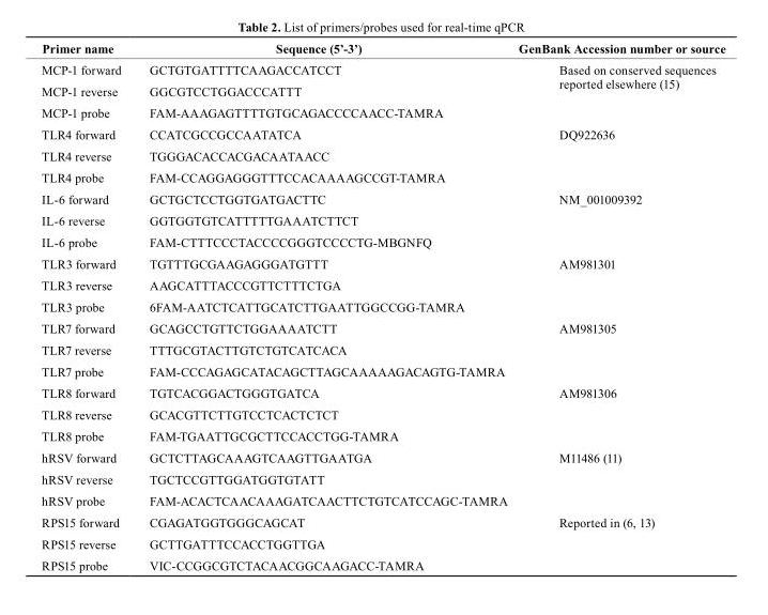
<table><thead><tr><td>Primer name</td><td>Sequence (5’-3’)</td><td>GenBank Accession number or source</td></tr></thead><tbody><tr><td>MCP-1 forward</td><td>GCTGTGATTTTCAAGACCATCCT</td><td rowspan="3">Based on conserved sequences reported elsewhere (15)</td></tr><tr><td>MCP-1 reverse</td><td>GGCGTCCTGGACCCATTT</td></tr><tr><td>MCP-1 probe</td><td>FAM-AAAGAGTTTTGTGCAGACCCCAACC-TAMRA</td></tr><tr><td>TLR4 forward</td><td>CCATCGCCGCCAATATCA</td><td rowspan="3">DQ922636</td></tr><tr><td>TLR4 reverse</td><td>TGGGACACCACGACAATAACC</td></tr><tr><td>TLR4 probe</td><td>FAM-CCAGGAGGGTTTCCACAAAAGCCGT-TAMRA</td></tr><tr><td>IL-6 forward</td><td>GCTGCTCCTGGTGATGACTTC</td><td rowspan="3">NM_001009392</td></tr><tr><td>IL-6 reverse</td><td>GGTGGTGTCATTTTTGAAATCTTCT</td></tr><tr><td>IL-6 probe</td><td>FAM-CTTTCCCTACCCCGGGTCCCCTG-MBGNFQ</td></tr><tr><td>TLR3 forward</td><td>TGTTTGCGAAGAGGGATGTTT</td><td rowspan="3">AM981301</td></tr><tr><td>TLR3 reverse</td><td>AAGCATTTACCCGTTCTTTCTGA</td></tr><tr><td>TLR3 probe</td><td>6FAM-AATCTCATTGCATCTTGAATTGGCCGG-TAMRA</td></tr><tr><td>TLR7 forward</td><td>GCAGCCTGTTCTGGAAAATCTT</td><td rowspan="3">AM981305</td></tr><tr><td>TLR7 reverse</td><td>TTTGCGTACTTGTCTGTCATCACA</td></tr><tr><td>TLR7 probe</td><td>FAM-CCCAGAGCATACAGCTTAGCAAAAAGACAGTG-TAMRA</td></tr><tr><td>TLR8 forward</td><td>TGTCACGGACTGGGTGATCA</td><td rowspan="3">AM981306</td></tr><tr><td>TLR8 reverse</td><td>GCACGTTCTTGTCCTCACTCTCT</td></tr><tr><td>TLR8 probe</td><td>FAM-TGAATTGCGCTTCCACCTGG-TAMRA</td></tr><tr><td>hRSV forward</td><td>GCTCTTAGCAAAGTCAAGTTGAATGA</td><td rowspan="3">M11486 (11)</td></tr><tr><td>hRSV reverse</td><td>TGCTCCGTTGGATGGTGTATT</td></tr><tr><td>hRSV probe</td><td>FAM-ACACTCAACAAAGATCAACTTCTGTCATCCAGC-TAMRA</td></tr><tr><td>RPS15 forward</td><td>CGAGATGGTGGGCAGCAT</td><td rowspan="3">Reported in (6, 13)</td></tr><tr><td>RPS15 reverse</td><td>GCTTGATTTCCACCTGGTTGA</td></tr><tr><td>RPS15 probe</td><td>VIC-CCGGCGTCTACAACGGCAAGACC-TAMRA</td></tr></tbody></table>